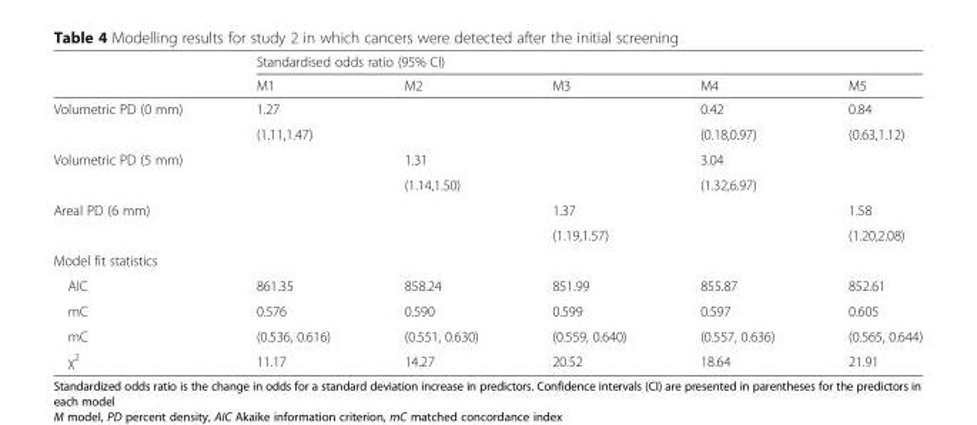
<table><thead><tr><td rowspan="2"></td><td colspan="5">Standardised odds ratio (95% CI)</td></tr><tr><td>M1</td><td>M2</td><td>M3</td><td>M4</td><td>M5</td></tr></thead><tbody><tr><td rowspan="2">Volumetric PD (0 mm)</td><td>1.27</td><td></td><td></td><td>0.42</td><td>0.84</td></tr><tr><td colspan="2">(1.11,1.47)</td><td></td><td>(0.18,0.97)</td><td>(0.63,1.12)</td></tr><tr><td colspan="2">Volumetric PD (5 mm)</td><td>1.31</td><td></td><td>3.04</td><td></td></tr><tr><td></td><td></td><td colspan="2">(1.14,1.50)</td><td>(1.32,6.97)</td><td></td></tr><tr><td colspan="2">Areal PD (6 mm)</td><td></td><td>1.37</td><td></td><td>1.58</td></tr><tr><td></td><td></td><td></td><td colspan="2">(1.19,1.57)</td><td>(1.20,2.08)</td></tr><tr><td colspan="6">Model fit statistics</td></tr><tr><td>AIC</td><td>861.35</td><td>858.24</td><td>851.99</td><td>855.87</td><td>852.61</td></tr><tr><td>mC</td><td>0.576</td><td>0.590</td><td>0.599</td><td>0.597</td><td>0.605</td></tr><tr><td>mC</td><td>(0.536, 0.616)</td><td>(0.551, 0.630)</td><td>(0.559, 0.640)</td><td>(0.557, 0.636)</td><td>(0.565, 0.644)</td></tr><tr><td>χ<sup>2</sup></td><td>11.17</td><td>14.27</td><td>20.52</td><td>18.64</td><td>21.91</td></tr></tbody></table>